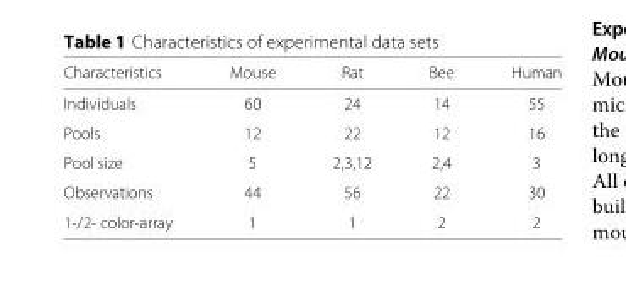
<table><thead><tr><td>Characteristics</td><td>Mouse</td><td>Rat</td><td>Bee</td><td>Human</td></tr></thead><tbody><tr><td>Individuals</td><td>60</td><td>24</td><td>14</td><td>55</td></tr><tr><td>Pools</td><td>12</td><td>22</td><td>12</td><td>16</td></tr><tr><td>Pool size</td><td>5</td><td>2,3,12</td><td>2,4</td><td>3</td></tr><tr><td>Observations</td><td>44</td><td>56</td><td>22</td><td>30</td></tr><tr><td>1-/2- color-array</td><td>1</td><td>1</td><td>2</td><td>2</td></tr></tbody></table>